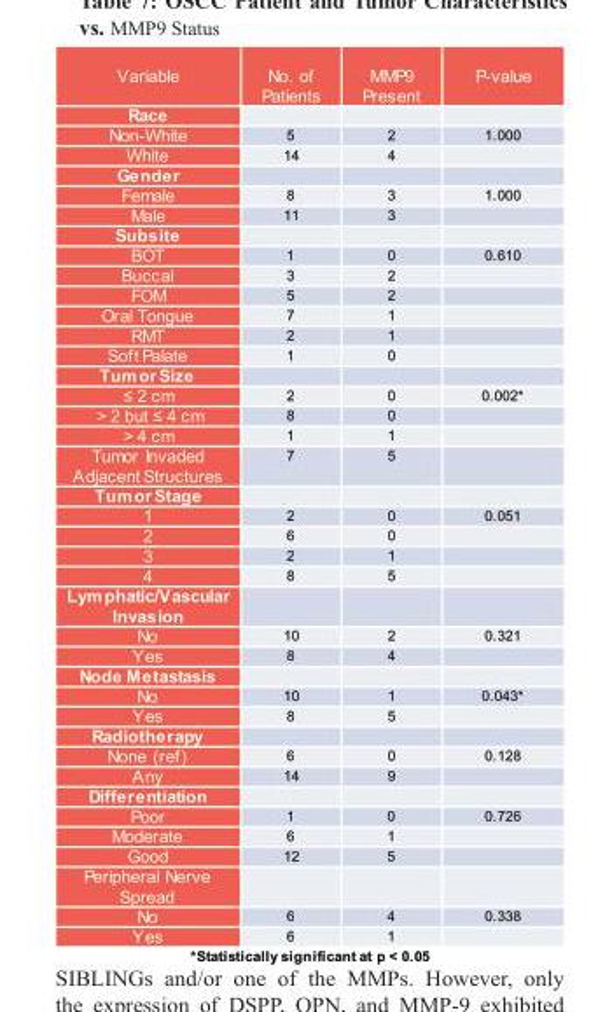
<table><thead><tr><td>Variable</td><td>No. of Patients</td><td>MMP9 Present</td><td>P-value</td></tr></thead><tbody><tr><td colspan="4">Race</td></tr><tr><td>Non-White</td><td>5</td><td>2</td><td>1.000</td></tr><tr><td>White</td><td>14</td><td>4</td><td></td></tr><tr><td colspan="4">Gender</td></tr><tr><td>Female</td><td>8</td><td>3</td><td>1.000</td></tr><tr><td>Male</td><td>11</td><td>3</td><td></td></tr><tr><td colspan="4">Subsite</td></tr><tr><td>BOT</td><td>1</td><td>0</td><td>0.610</td></tr><tr><td>Buccal</td><td>3</td><td>2</td><td></td></tr><tr><td>FOM</td><td>5</td><td>2</td><td></td></tr><tr><td>Oral Tongue</td><td>7</td><td>1</td><td></td></tr><tr><td>RMT</td><td>2</td><td>1</td><td></td></tr><tr><td>Soft Palate</td><td>1</td><td>0</td><td></td></tr><tr><td colspan="4">Tumor Size</td></tr><tr><td>≤ 2 cm</td><td>2</td><td>0</td><td>0.002*</td></tr><tr><td>&gt; 2 but ≤ 4 cm</td><td>8</td><td>0</td><td></td></tr><tr><td>&gt; 4 cm</td><td>1</td><td>1</td><td></td></tr><tr><td>Tumor Invaded Adjacent Structures</td><td>7</td><td>5</td><td></td></tr><tr><td colspan="4">Tumor Stage</td></tr><tr><td>1</td><td>2</td><td>0</td><td>0.051</td></tr><tr><td>2</td><td>6</td><td>0</td><td></td></tr><tr><td>3</td><td>2</td><td>1</td><td></td></tr><tr><td>4</td><td>8</td><td>5</td><td></td></tr><tr><td colspan="4">Lymphatic/Vascular Invasion</td></tr><tr><td>No</td><td>10</td><td>2</td><td>0.321</td></tr><tr><td>Yes</td><td>8</td><td>4</td><td></td></tr><tr><td colspan="4">Node Metastasis</td></tr><tr><td>No</td><td>10</td><td>1</td><td>0.043*</td></tr><tr><td>Yes</td><td>8</td><td>5</td><td></td></tr><tr><td colspan="4">Radiotherapy</td></tr><tr><td>None (ref)</td><td>6</td><td>0</td><td>0.128</td></tr><tr><td>Any</td><td>14</td><td>9</td><td></td></tr><tr><td colspan="4">Differentiation</td></tr><tr><td>Poor</td><td>1</td><td>0</td><td>0.726</td></tr><tr><td>Moderate</td><td>6</td><td>1</td><td></td></tr><tr><td>Good</td><td>12</td><td>5</td><td></td></tr><tr><td colspan="4">Peripheral Nerve Spread</td></tr><tr><td>No</td><td>6</td><td>4</td><td>0.338</td></tr><tr><td>Yes</td><td>6</td><td>1</td><td></td></tr></tbody></table>